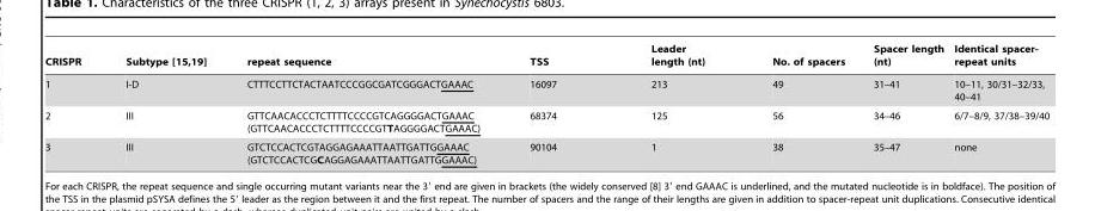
<table><thead><tr><td>CRISPR</td><td>Subtype [15,19]</td><td>repeat sequence</td><td>TSS</td><td>Leader length (nt)</td><td>No. of spacers</td><td>Spacer length (nt)</td><td>Identical spacer- repeat units</td></tr></thead><tbody><tr><td>1</td><td>I-D</td><td>CTTTCCTTCTACTAATCCCGGCGATCGGGACTGAAAC</td><td>16097</td><td>213</td><td>49</td><td>31–41</td><td>10–11, 30/31–32/33, 40–41</td></tr><tr><td>2</td><td>III</td><td>GTTCAACACCCTCTTTTCCCCGTCAGGGGACTGAAAC (GTTCAACACCCTCTTTTCCCCGTTAGGGGACTGAAAC)</td><td>68374</td><td>125</td><td>56</td><td>34–46</td><td>6/7–8/9, 37/38–39/40</td></tr><tr><td>3</td><td>III</td><td>GTCTCCACTCGTAGGAGAAATTAATTGATTGGAAAC (GTCTCCACTCGCAGGAGAAATTAATTGATTGGAAAC)</td><td>90104</td><td>1</td><td>38</td><td>35–47</td><td>none</td></tr></tbody></table>